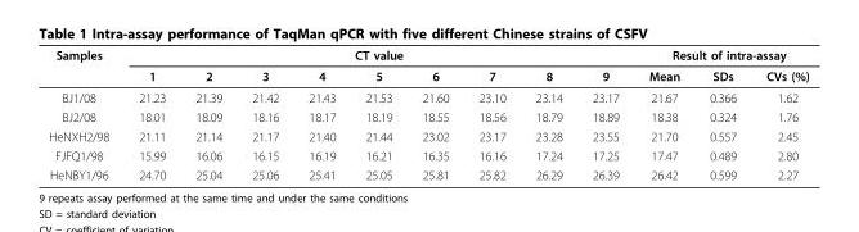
<table><thead><tr><td rowspan="2">Samples</td><td colspan="9">CT value</td><td colspan="3">Result of intra-assay</td></tr><tr><td>1</td><td>2</td><td>3</td><td>4</td><td>5</td><td>6</td><td>7</td><td>8</td><td>9</td><td>Mean</td><td>SDs</td><td>CVs (%)</td></tr></thead><tbody><tr><td>BJ1/08</td><td>21.23</td><td>21.39</td><td>21.42</td><td>21.43</td><td>21.53</td><td>21.60</td><td>23.10</td><td>23.14</td><td>23.17</td><td>21.67</td><td>0.366</td><td>1.62</td></tr><tr><td>BJ2/08</td><td>18.01</td><td>18.09</td><td>18.16</td><td>18.17</td><td>18.19</td><td>18.55</td><td>18.56</td><td>18.79</td><td>18.89</td><td>18.38</td><td>0.324</td><td>1.76</td></tr><tr><td>HeNXH2/98</td><td>21.11</td><td>21.14</td><td>21.17</td><td>21.40</td><td>21.44</td><td>23.02</td><td>23.17</td><td>23.28</td><td>23.55</td><td>21.70</td><td>0.557</td><td>2.45</td></tr><tr><td>FJFQ1/98</td><td>15.99</td><td>16.06</td><td>16.15</td><td>16.19</td><td>16.21</td><td>16.35</td><td>16.16</td><td>17.24</td><td>17.25</td><td>17.47</td><td>0.489</td><td>2.80</td></tr><tr><td>HeNBY1/96</td><td>24.70</td><td>25.04</td><td>25.06</td><td>25.41</td><td>25.05</td><td>25.81</td><td>25.82</td><td>26.29</td><td>26.39</td><td>26.42</td><td>0.599</td><td>2.27</td></tr></tbody></table>